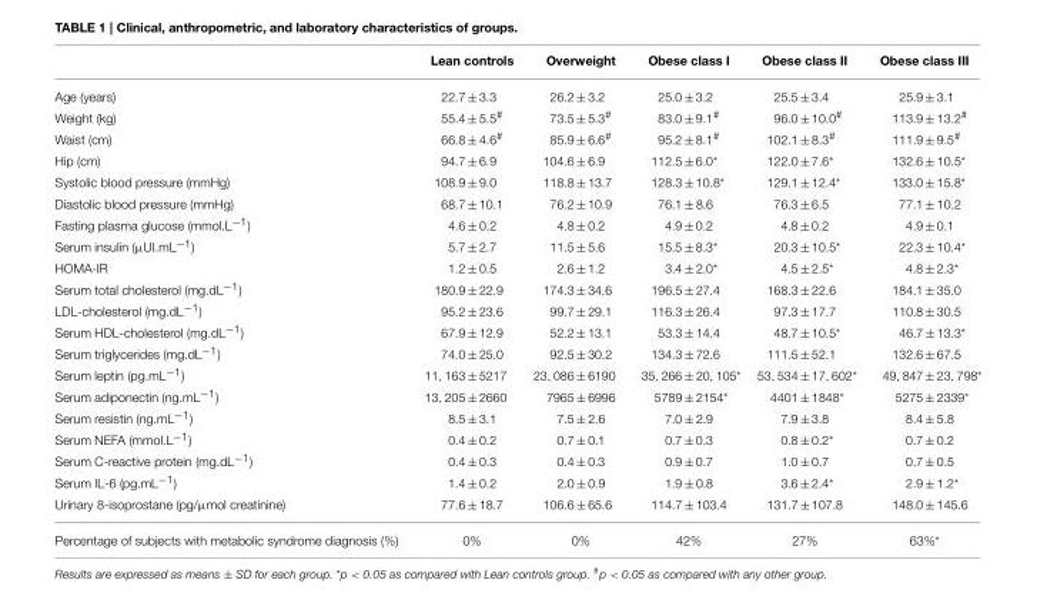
<table><thead><tr><td></td><td>Lean controls</td><td>Overweight</td><td>Obese class I</td><td>Obese class II</td><td>Obese class III</td></tr></thead><tbody><tr><td>Age (years)</td><td>22.7 ± 3.3</td><td>26.2 ± 3.2</td><td>25.0 ± 3.2</td><td>25.5 ± 3.4</td><td>25.9 ± 3.1</td></tr><tr><td>Weight (kg)</td><td>55.4 ± 5.5<sup>#</sup></td><td>73.5 ± 5.3<sup>#</sup></td><td>83.0 ± 9.1<sup>#</sup></td><td>96.0 ± 10.0<sup>#</sup></td><td>113.9 ± 13.2<sup>#</sup></td></tr><tr><td>Waist (cm)</td><td>66.8 ± 4.6<sup>#</sup></td><td>85.9 ± 6.6<sup>#</sup></td><td>95.2 ± 8.1<sup>#</sup></td><td>102.1 ± 8.3<sup>#</sup></td><td>111.9 ± 9.5<sup>#</sup></td></tr><tr><td>Hip (cm)</td><td>94.7 ± 6.9</td><td>104.6 ± 6.9</td><td>112.5 ± 6.0*</td><td>122.0 ± 7.6*</td><td>132.6 ± 10.5*</td></tr><tr><td>Systolic blood pressure (mmHg)</td><td>108.9 ± 9.0</td><td>118.8 ± 13.7</td><td>128.3 ± 10.8*</td><td>129.1 ± 12.4*</td><td>133.0 ± 15.8*</td></tr><tr><td>Diastolic blood pressure (mmHg)</td><td>68.7 ± 10.1</td><td>76.2 ± 10.9</td><td>76.1 ± 8.6</td><td>76.3 ± 6.5</td><td>77.1 ± 10.2</td></tr><tr><td>Fasting plasma glucose (mmol.L<sup>−1</sup>)</td><td>4.6 ± 0.2</td><td>4.8 ± 0.2</td><td>4.9 ± 0.2</td><td>4.8 ± 0.2</td><td>4.9 ± 0.1</td></tr><tr><td>Serum insulin (µUI.mL<sup>−1</sup>)</td><td>5.7 ± 2.7</td><td>11.5 ± 5.6</td><td>15.5 ± 8.3*</td><td>20.3 ± 10.5*</td><td>22.3 ± 10.4*</td></tr><tr><td>HOMA-IR</td><td>1.2 ± 0.5</td><td>2.6 ± 1.2</td><td>3.4 ± 2.0*</td><td>4.5 ± 2.5*</td><td>4.8 ± 2.3*</td></tr><tr><td>Serum total cholesterol (mg.dL<sup>−1</sup>)</td><td>180.9 ± 22.9</td><td>174.3 ± 34.6</td><td>196.5 ± 27.4</td><td>168.3 ± 22.6</td><td>184.1 ± 35.0</td></tr><tr><td>LDL-cholesterol (mg.dL<sup>−1</sup>)</td><td>95.2 ± 23.6</td><td>99.7 ± 29.1</td><td>116.3 ± 26.4</td><td>97.3 ± 17.7</td><td>110.8 ± 30.5</td></tr><tr><td>Serum HDL-cholesterol (mg.dL<sup>−1</sup>)</td><td>67.9 ± 12.9</td><td>52.2 ± 13.1</td><td>53.3 ± 14.4</td><td>48.7 ± 10.5*</td><td>46.7 ± 13.3*</td></tr><tr><td>Serum triglycerides (mg.dL<sup>−1</sup>)</td><td>74.0 ± 25.0</td><td>92.5 ± 30.2</td><td>134.3 ± 72.6</td><td>111.5 ± 52.1</td><td>132.6 ± 67.5</td></tr><tr><td>Serum leptin (pg.mL<sup>−1</sup>)</td><td>11, 163 ± 5217</td><td>23, 086 ± 6190</td><td>35, 266 ± 20, 105*</td><td>53, 534 ± 17, 602*</td><td>49, 847 ± 23, 798*</td></tr><tr><td>Serum adiponectin (ng.mL<sup>−1</sup>)</td><td>13, 205 ± 2660</td><td>7965 ± 6996</td><td>5789 ± 2154*</td><td>4401 ± 1848*</td><td>5275 ± 2339*</td></tr><tr><td>Serum resistin (ng.mL<sup>−1</sup>)</td><td>8.5 ± 3.1</td><td>7.5 ± 2.6</td><td>7.0 ± 2.9</td><td>7.9 ± 3.8</td><td>8.4 ± 5.8</td></tr><tr><td>Serum NEFA (mmol.L<sup>−1</sup>)</td><td>0.4 ± 0.2</td><td>0.7 ± 0.1</td><td>0.7 ± 0.3</td><td>0.8 ± 0.2*</td><td>0.7 ± 0.2</td></tr><tr><td>Serum C-reactive protein (mg.dL<sup>−1</sup>)</td><td>0.4 ± 0.3</td><td>0.4 ± 0.3</td><td>0.9 ± 0.7</td><td>1.0 ± 0.7</td><td>0.7 ± 0.5</td></tr><tr><td>Serum IL-6 (pg.mL<sup>−1</sup>)</td><td>1.4 ± 0.2</td><td>2.0 ± 0.9</td><td>1.9 ± 0.8</td><td>3.6 ± 2.4*</td><td>2.9 ± 1.2*</td></tr><tr><td>Urinary 8-isoprostane (pg/µmol creatinine)</td><td>77.6 ± 18.7</td><td>106.6 ± 65.6</td><td>114.7 ± 103.4</td><td>131.7 ± 107.8</td><td>148.0 ± 145.6</td></tr><tr><td>Percentage of subjects with metabolic syndrome diagnosis (%)</td><td>0%</td><td>0%</td><td>42%</td><td>27%</td><td>63%*</td></tr></tbody></table>